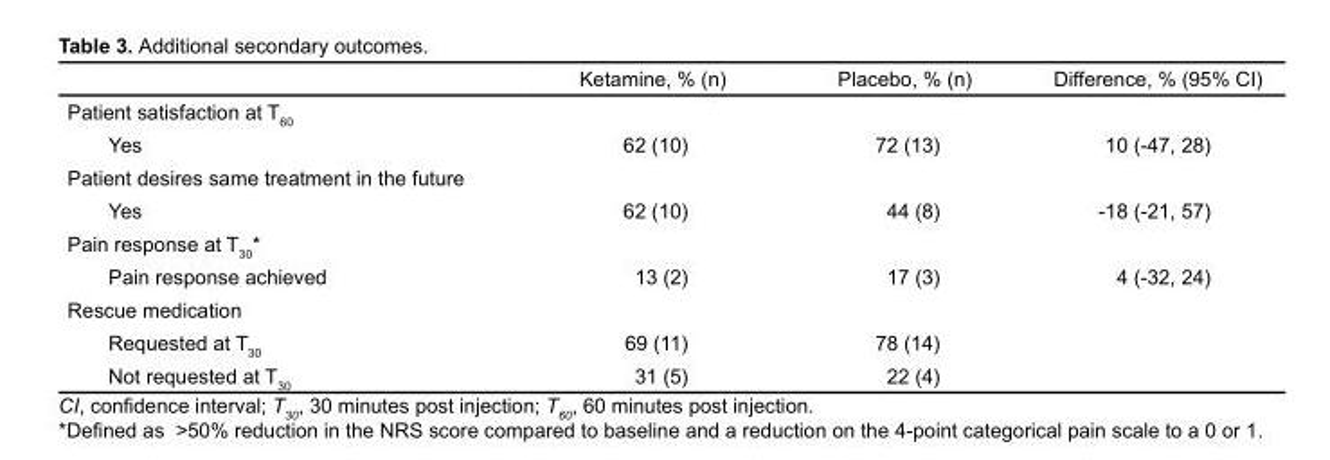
<table><thead><tr><td></td><td>Ketamine, % (n)</td><td>Placebo, % (n)</td><td>Difference, % (95% CI)</td></tr></thead><tbody><tr><td colspan="4">Patient satisfaction at T<sub>60</sub></td></tr><tr><td>Yes</td><td>62 (10)</td><td>72 (13)</td><td>10 (-47, 28)</td></tr><tr><td colspan="4">Patient desires same treatment in the future</td></tr><tr><td>Yes</td><td>62 (10)</td><td>44 (8)</td><td>-18 (-21, 57)</td></tr><tr><td colspan="4">Pain response at T<sub>30</sub>*</td></tr><tr><td>Pain response achieved</td><td>13 (2)</td><td>17 (3)</td><td>4 (-32, 24)</td></tr><tr><td colspan="4">Rescue medication</td></tr><tr><td>Requested at T<sub>30</sub></td><td>69 (11)</td><td>78 (14)</td><td></td></tr><tr><td>Not requested at T<sub>30</sub></td><td>31 (5)</td><td>22 (4)</td><td></td></tr></tbody></table>